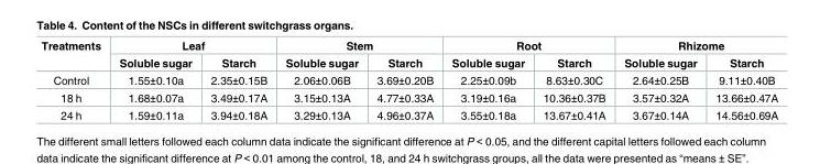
<table><thead><tr><td rowspan="2">Treatments</td><td colspan="2">Leaf</td><td colspan="2">Stem</td><td colspan="2">Root</td><td colspan="2">Rhizome</td></tr><tr><td>Soluble sugar</td><td>Starch</td><td>Soluble sugar</td><td>Starch</td><td>Soluble sugar</td><td>Starch</td><td>Soluble sugar</td><td>Starch</td></tr></thead><tbody><tr><td>Control</td><td>1.55±0.10a</td><td>2.35±0.15B</td><td>2.06±0.06B</td><td>3.69±0.20B</td><td>2.25±0.09b</td><td>8.63±0.30C</td><td>2.64±0.25B</td><td>9.11±0.40B</td></tr><tr><td>18 h</td><td>1.68±0.07a</td><td>3.49±0.17A</td><td>3.15±0.13A</td><td>4.77±0.33A</td><td>3.19±0.16a</td><td>10.36±0.37B</td><td>3.57±0.32A</td><td>13.66±0.47A</td></tr><tr><td>24 h</td><td>1.59±0.11a</td><td>3.94±0.18A</td><td>3.29±0.13A</td><td>4.96±0.37A</td><td>3.55±0.18a</td><td>13.67±0.41A</td><td>3.67±0.14A</td><td>14.56±0.69A</td></tr></tbody></table>